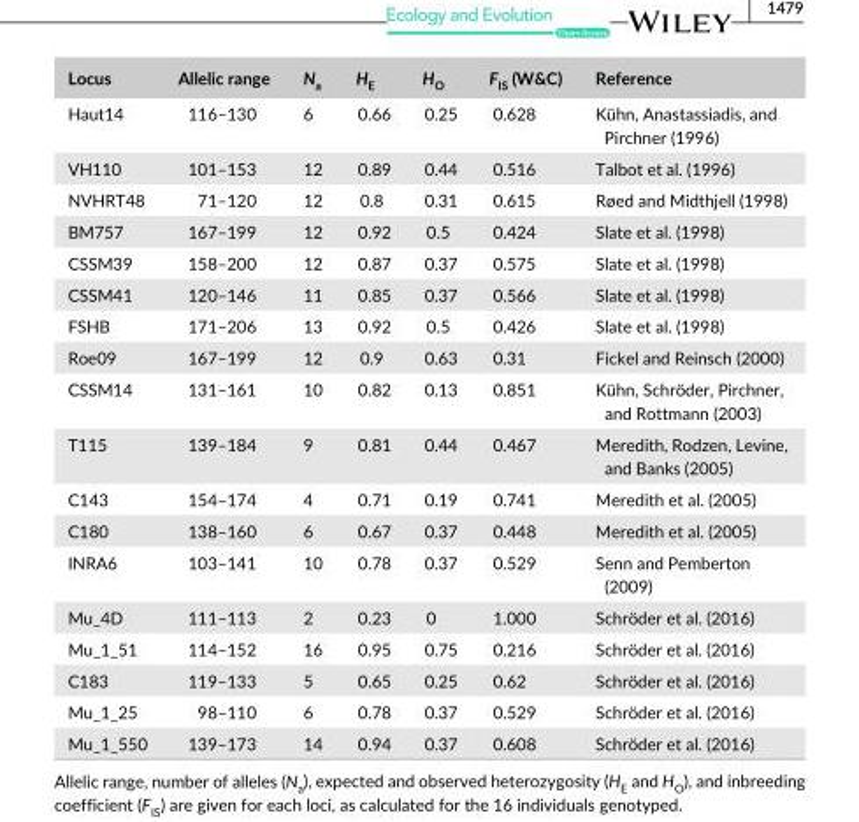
<table><thead><tr><td>Locus</td><td>Allelic range</td><td>N<sub>a</sub></td><td>H<sub>E</sub></td><td>H<sub>O</sub></td><td>F<sub>IS</sub> (W&amp;C)</td><td>Reference</td></tr></thead><tbody><tr><td>Haut14</td><td>116–130</td><td>6</td><td>0.66</td><td>0.25</td><td>0.628</td><td>Kühn, Anastassiadis, and Pirchner (1996)</td></tr><tr><td>VH110</td><td>101–153</td><td>12</td><td>0.89</td><td>0.44</td><td>0.516</td><td>Talbot et al. (1996)</td></tr><tr><td>NVHRT48</td><td>71–120</td><td>12</td><td>0.8</td><td>0.31</td><td>0.615</td><td>Røed and Midthjell (1998)</td></tr><tr><td>BM757</td><td>167–199</td><td>12</td><td>0.92</td><td>0.5</td><td>0.424</td><td>Slate et al. (1998)</td></tr><tr><td>CSSM39</td><td>158–200</td><td>12</td><td>0.87</td><td>0.37</td><td>0.575</td><td>Slate et al. (1998)</td></tr><tr><td>CSSM41</td><td>120–146</td><td>11</td><td>0.85</td><td>0.37</td><td>0.566</td><td>Slate et al. (1998)</td></tr><tr><td>FSHB</td><td>171–206</td><td>13</td><td>0.92</td><td>0.5</td><td>0.426</td><td>Slate et al. (1998)</td></tr><tr><td>Roe09</td><td>167–199</td><td>12</td><td>0.9</td><td>0.63</td><td>0.31</td><td>Fickel and Reinsch (2000)</td></tr><tr><td>CSSM14</td><td>131–161</td><td>10</td><td>0.82</td><td>0.13</td><td>0.851</td><td>Kühn, Schröder, Pirchner, and Rottmann (2003)</td></tr><tr><td>T115</td><td>139–184</td><td>9</td><td>0.81</td><td>0.44</td><td>0.467</td><td>Meredith, Rodzen, Levine, and Banks (2005)</td></tr><tr><td>C143</td><td>154–174</td><td>4</td><td>0.71</td><td>0.19</td><td>0.741</td><td>Meredith et al. (2005)</td></tr><tr><td>C180</td><td>138–160</td><td>6</td><td>0.67</td><td>0.37</td><td>0.448</td><td>Meredith et al. (2005)</td></tr><tr><td>INRA6</td><td>103–141</td><td>10</td><td>0.78</td><td>0.37</td><td>0.529</td><td>Senn and Pemberton (2009)</td></tr><tr><td>Mu_4D</td><td>111–113</td><td>2</td><td>0.23</td><td>0</td><td>1.000</td><td>Schröder et al. (2016)</td></tr><tr><td>Mu_1_51</td><td>114–152</td><td>16</td><td>0.95</td><td>0.75</td><td>0.216</td><td>Schröder et al. (2016)</td></tr><tr><td>C183</td><td>119–133</td><td>5</td><td>0.65</td><td>0.25</td><td>0.62</td><td>Schröder et al. (2016)</td></tr><tr><td>Mu_1_25</td><td>98–110</td><td>6</td><td>0.78</td><td>0.37</td><td>0.529</td><td>Schröder et al. (2016)</td></tr><tr><td>Mu_1_550</td><td>139–173</td><td>14</td><td>0.94</td><td>0.37</td><td>0.608</td><td>Schröder et al. (2016)</td></tr></tbody></table>